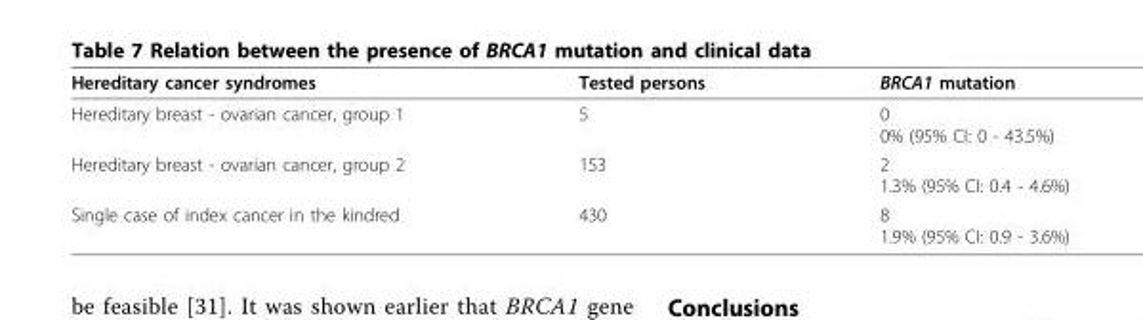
<table><thead><tr><td>Hereditary cancer syndromes</td><td>Tested persons</td><td>BRCA1 mutation</td></tr></thead><tbody><tr><td>Hereditary breast - ovarian cancer, group 1</td><td>5</td><td>0 0% (95% CI: 0 - 43.5%)</td></tr><tr><td>Hereditary breast - ovarian cancer, group 2</td><td>153</td><td>2 1.3% (95% CI: 0.4 - 4.6%)</td></tr><tr><td>Single case of index cancer in the kindred</td><td>430</td><td>8 1.9% (95% CI: 0.9 - 3.6%)</td></tr></tbody></table>